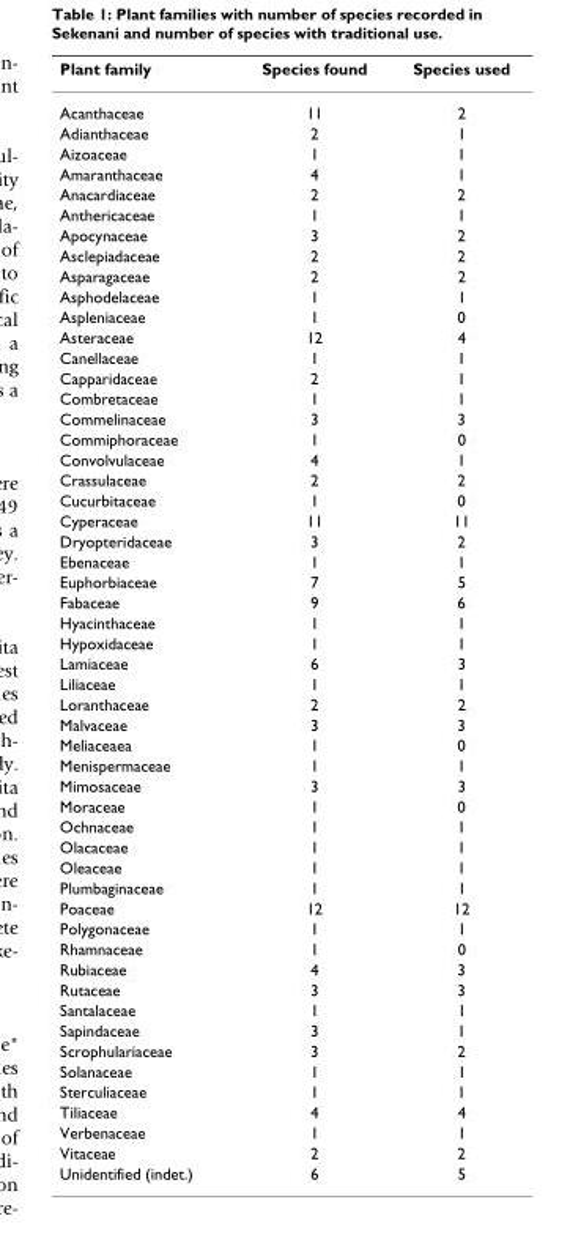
<table><thead><tr><td>Plant family</td><td>Species found</td><td>Species used</td></tr></thead><tbody><tr><td>Acanthaceae</td><td>11</td><td>2</td></tr><tr><td>Adianthaceae</td><td>2</td><td>1</td></tr><tr><td>Aizoaceae</td><td>1</td><td>1</td></tr><tr><td>Amaranthaceae</td><td>4</td><td>1</td></tr><tr><td>Anacardiaceae</td><td>2</td><td>2</td></tr><tr><td>Anthericaceae</td><td>1</td><td>1</td></tr><tr><td>Apocynaceae</td><td>3</td><td>2</td></tr><tr><td>Asclepiadaceae</td><td>2</td><td>2</td></tr><tr><td>Asparagaceae</td><td>2</td><td>2</td></tr><tr><td>Asphodelaceae</td><td>1</td><td>1</td></tr><tr><td>Aspleniaceae</td><td>1</td><td>0</td></tr><tr><td>Asteraceae</td><td>12</td><td>4</td></tr><tr><td>Canellaceae</td><td>1</td><td>1</td></tr><tr><td>Capparidaceae</td><td>2</td><td>1</td></tr><tr><td>Combretaceae</td><td>1</td><td>1</td></tr><tr><td>Commelinaceae</td><td>3</td><td>3</td></tr><tr><td>Commiphoraceae</td><td>1</td><td>0</td></tr><tr><td>Convolvulaceae</td><td>4</td><td>1</td></tr><tr><td>Crassulaceae</td><td>2</td><td>2</td></tr><tr><td>Cucurbitaceae</td><td>1</td><td>0</td></tr><tr><td>Cyperaceae</td><td>11</td><td>11</td></tr><tr><td>Dryopteridaceae</td><td>3</td><td>2</td></tr><tr><td>Ebenaceae</td><td>1</td><td>1</td></tr><tr><td>Euphorbiaceae</td><td>7</td><td>5</td></tr><tr><td>Fabaceae</td><td>9</td><td>6</td></tr><tr><td>Hyacinthaceae</td><td>1</td><td>1</td></tr><tr><td>Hypoxidaceae</td><td>1</td><td>1</td></tr><tr><td>Lamiaceae</td><td>6</td><td>3</td></tr><tr><td>Liliaceae</td><td>1</td><td>1</td></tr><tr><td>Loranthaceae</td><td>2</td><td>2</td></tr><tr><td>Malvaceae</td><td>3</td><td>3</td></tr><tr><td>Meliaceaea</td><td>1</td><td>0</td></tr><tr><td>Menispermaceae</td><td>1</td><td>1</td></tr><tr><td>Mimosaceae</td><td>3</td><td>3</td></tr><tr><td>Moraceae</td><td>1</td><td>0</td></tr><tr><td>Ochnaceae</td><td>1</td><td>1</td></tr><tr><td>Olacaceae</td><td>1</td><td>1</td></tr><tr><td>Oleaceae</td><td>1</td><td>1</td></tr><tr><td>Plumbaginaceae</td><td>1</td><td>1</td></tr><tr><td>Poaceae</td><td>12</td><td>12</td></tr><tr><td>Polygonaceae</td><td>1</td><td>1</td></tr><tr><td>Rhamnaceae</td><td>1</td><td>0</td></tr><tr><td>Rubiaceae</td><td>4</td><td>3</td></tr><tr><td>Rutaceae</td><td>3</td><td>3</td></tr><tr><td>Santalaceae</td><td>1</td><td>1</td></tr><tr><td>Sapindaceae</td><td>3</td><td>1</td></tr><tr><td>Scrophulariaceae</td><td>3</td><td>2</td></tr><tr><td>Solanaceae</td><td>1</td><td>1</td></tr><tr><td>Sterculiaceae</td><td>1</td><td>1</td></tr><tr><td>Tiliaceae</td><td>4</td><td>4</td></tr><tr><td>Verbenaceae</td><td>1</td><td>1</td></tr><tr><td>Vitaceae</td><td>2</td><td>2</td></tr><tr><td>Unidentified (indet.)</td><td>6</td><td>5</td></tr></tbody></table>